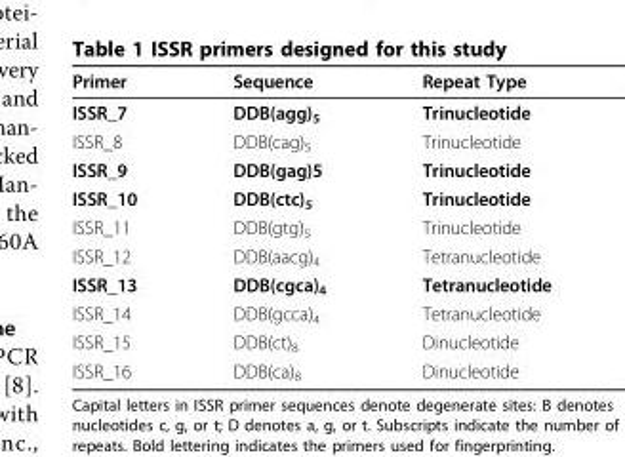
<table><thead><tr><td>Primer</td><td>Sequence</td><td>Repeat Type</td></tr></thead><tbody><tr><td>ISSR_7</td><td>DDB(agg)<sub>5</sub></td><td>Trinucleotide</td></tr><tr><td>ISSR_8</td><td>DDB(cag)<sub>5</sub></td><td>Trinucleotide</td></tr><tr><td>ISSR_9</td><td>DDB(gag)5</td><td>Trinucleotide</td></tr><tr><td>ISSR_10</td><td>DDB(ctc)<sub>5</sub></td><td>Trinucleotide</td></tr><tr><td>ISSR_11</td><td>DDB(gtg)<sub>5</sub></td><td>Trinucleotide</td></tr><tr><td>ISSR_12</td><td>DDB(aacg)<sub>4</sub></td><td>Tetranucleotide</td></tr><tr><td>ISSR_13</td><td>DDB(cgca)<sub>4</sub></td><td>Tetranucleotide</td></tr><tr><td>ISSR_14</td><td>DDB(gcca)<sub>4</sub></td><td>Tetranucleotide</td></tr><tr><td>ISSR_15</td><td>DDB(ct)<sub>8</sub></td><td>Dinucleotide</td></tr><tr><td>ISSR_16</td><td>DDB(ca)<sub>8</sub></td><td>Dinucleotide</td></tr></tbody></table>